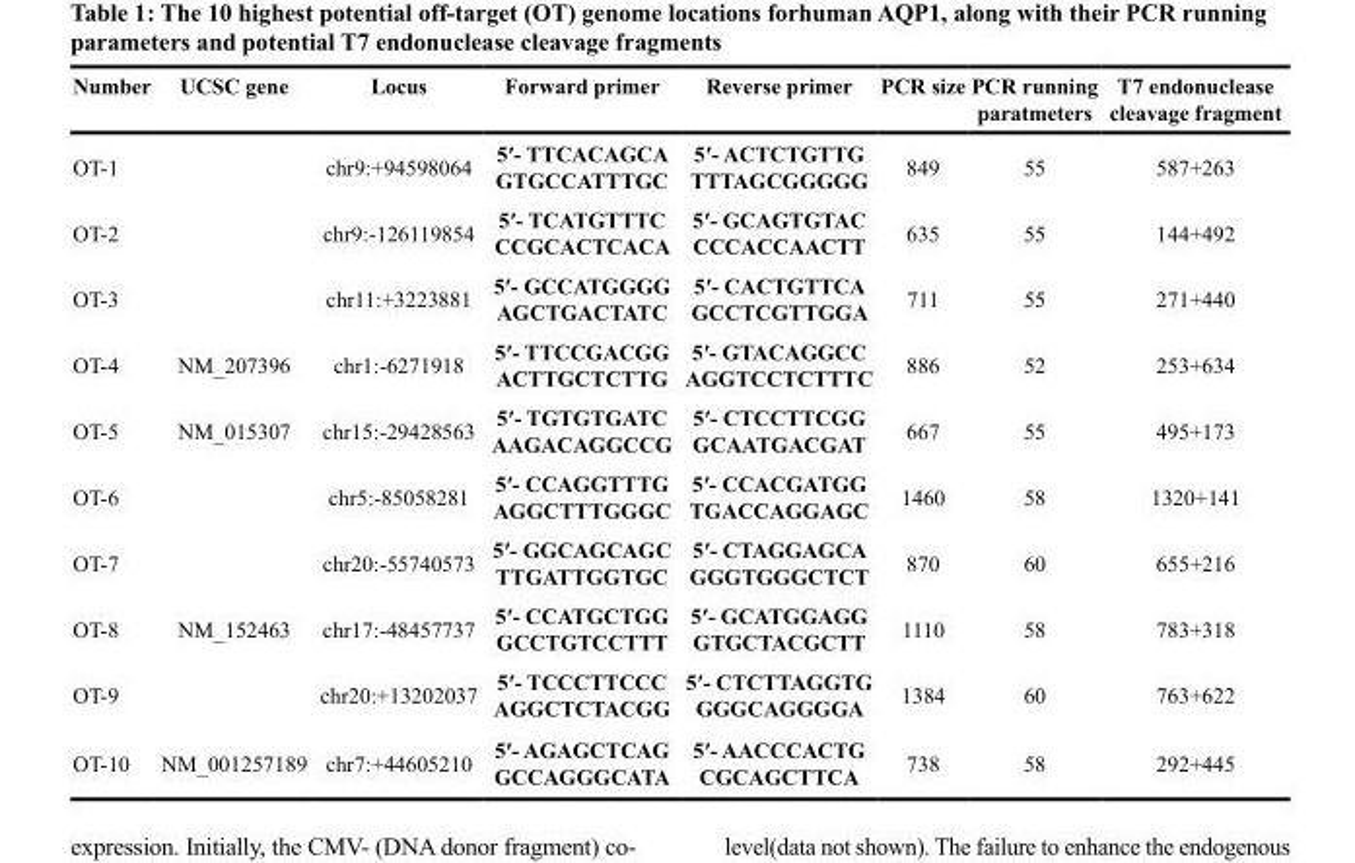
<table><thead><tr><td>Number</td><td>UCSC gene</td><td>Locus</td><td>Forward primer</td><td>Reverse primer</td><td>PCR size</td><td>PCR running paratmeters</td><td>T7 endonuclease cleavage fragment</td></tr></thead><tbody><tr><td>OT-1</td><td></td><td>chr9:+94598064</td><td>5′- TTCACAGCA GTGCCATTTGC</td><td>5′- ACTCTGTTG TTTAGCGGGGG</td><td>849</td><td>55</td><td>587+263</td></tr><tr><td>OT-2</td><td></td><td>chr9:-126119854</td><td>5′- TCATGTTTC CCGCACTCACA</td><td>5′- GCAGTGTAC CCCACCAACTT</td><td>635</td><td>55</td><td>144+492</td></tr><tr><td>OT-3</td><td></td><td>chr11:+3223881</td><td>5′- GCCATGGGG AGCTGACTATC</td><td>5′- CACTGTTCA GCCTCGTTGGA</td><td>711</td><td>55</td><td>271+440</td></tr><tr><td>OT-4</td><td>NM_207396</td><td>chr1:-6271918</td><td>5′- TTCCGACGG ACTTGCTCTTG</td><td>5′- GTACAGGCC AGGTCCTCTTTC</td><td>886</td><td>52</td><td>253+634</td></tr><tr><td>OT-5</td><td>NM_015307</td><td>chr15:-29428563</td><td>5′- TGTGTGATC AAGACAGGCCG</td><td>5′- CTCCTTCGG GCAATGACGAT</td><td>667</td><td>55</td><td>495+173</td></tr><tr><td>OT-6</td><td></td><td>chr5:-85058281</td><td>5′- CCAGGTTTG AGGCTTTGGGC</td><td>5′- CCACGATGG TGACCAGGAGC</td><td>1460</td><td>58</td><td>1320+141</td></tr><tr><td>OT-7</td><td></td><td>chr20:-55740573</td><td>5′- GGCAGCAGC TTGATTGGTGC</td><td>5′- CTAGGAGCA GGGTGGGCTCT</td><td>870</td><td>60</td><td>655+216</td></tr><tr><td>OT-8</td><td>NM_152463</td><td>chr17:-48457737</td><td>5′- CCATGCTGG GCCTGTCCTTT</td><td>5′- GCATGGAGG GTGCTACGCTT</td><td>1110</td><td>58</td><td>783+318</td></tr><tr><td>OT-9</td><td></td><td>chr20:+13202037</td><td>5′- TCCCTTCCC AGGCTCTACGG</td><td>5′- CTCTTAGGTG GGGCAGGGGA</td><td>1384</td><td>60</td><td>763+622</td></tr><tr><td>OT-10</td><td>NM_001257189</td><td>chr7:+44605210</td><td>5′- AGAGCTCAG GCCAGGGCATA</td><td>5′- AACCCACTG CGCAGCTTCA</td><td>738</td><td>58</td><td>292+445</td></tr></tbody></table>